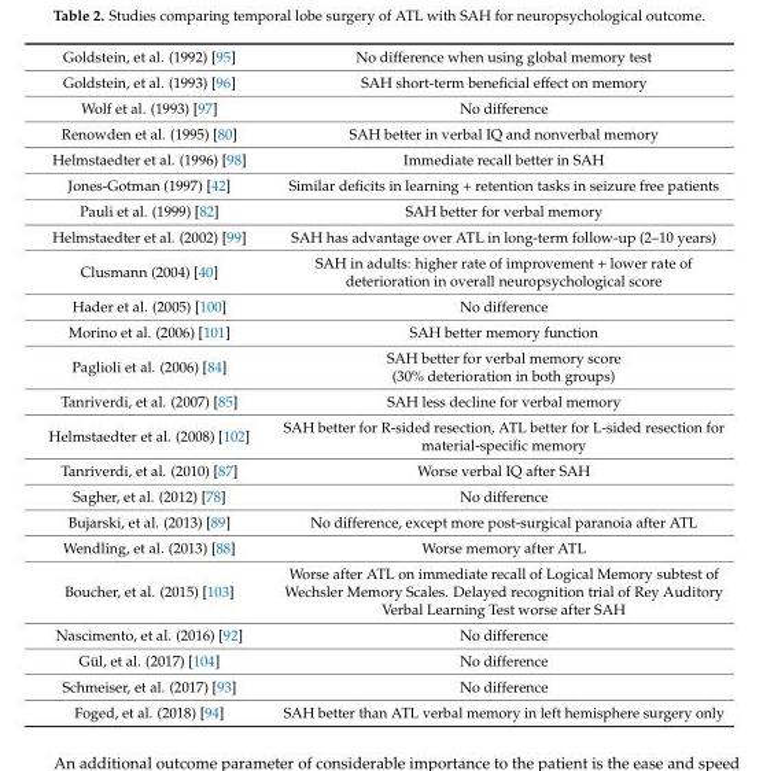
<table><tbody><tr><td>Goldstein, et al. (1992) [95]</td><td>No difference when using global memory test</td></tr><tr><td>Goldstein, et al. (1993) [96]</td><td>SAH short-term beneficial effect on memory</td></tr><tr><td>Wolf et al. (1993) [97]</td><td>No difference</td></tr><tr><td>Renowden et al. (1995) [80]</td><td>SAH better in verbal IQ and nonverbal memory</td></tr><tr><td>Helmstaedter et al. (1996) [98]</td><td>Immediate recall better in SAH</td></tr><tr><td>Jones-Gotman (1997) [42]</td><td>Similar deficits in learning + retention tasks in seizure free patients</td></tr><tr><td>Pauli et al. (1999) [82]</td><td>SAH better for verbal memory</td></tr><tr><td>Helmstaedter et al. (2002) [99]</td><td>SAH has advantage over ATL in long-term follow-up (2–10 years)</td></tr><tr><td>Clusmann (2004) [40]</td><td>SAH in adults: higher rate of improvement + lower rate of deterioration in overall neuropsychological score</td></tr><tr><td>Hader et al. (2005) [100]</td><td>No difference</td></tr><tr><td>Morino et al. (2006) [101]</td><td>SAH better memory function</td></tr><tr><td>Paglioli et al. (2006) [84]</td><td>SAH better for verbal memory score (30% deterioration in both groups)</td></tr><tr><td>Tanriverdi, et al. (2007) [85]</td><td>SAH less decline for verbal memory</td></tr><tr><td>Helmstaedter et al. (2008) [102]</td><td>SAH better for R-sided resection, ATL better for L-sided resection for material-specific memory</td></tr><tr><td>Tanriverdi, et al. (2010) [87]</td><td>Worse verbal IQ after SAH</td></tr><tr><td>Sagher, et al. (2012) [78]</td><td>No difference</td></tr><tr><td>Bujarski, et al. (2013) [89]</td><td>No difference, except more post-surgical paranoia after ATL</td></tr><tr><td>Wendling, et al. (2013) [88]</td><td>Worse memory after ATL</td></tr><tr><td>Boucher, et al. (2015) [103]</td><td>Worse after ATL on immediate recall of Logical Memory subtest of Wechsler Memory Scales. Delayed recognition trial of Rey Auditory Verbal Learning Test worse after SAH</td></tr><tr><td>Nascimento, et al. (2016) [92]</td><td>No difference</td></tr><tr><td>Gül, et al. (2017) [104]</td><td>No difference</td></tr><tr><td>Schmeiser, et al. (2017) [93]</td><td>No difference</td></tr><tr><td>Foged, et al. (2018) [94]</td><td>SAH better than ATL verbal memory in left hemisphere surgery only</td></tr></tbody></table>